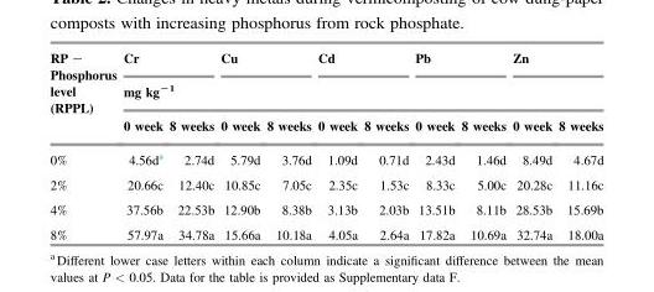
<table><thead><tr><td rowspan="3">RP – Phosphorus level (RPPL)</td><td colspan="2">Cr</td><td colspan="2">Cu</td><td colspan="2">Cd</td><td colspan="2">Pb</td><td colspan="2">Zn</td></tr><tr><td colspan="10">mg kg<sup>−1</sup></td></tr><tr><td>0 week</td><td>8 weeks</td><td>0 week</td><td>8 weeks</td><td>0 week</td><td>8 weeks</td><td>0 week</td><td>8 weeks</td><td>0 week</td><td>8 weeks</td></tr></thead><tbody><tr><td>0%</td><td>4.56d<sup>a</sup></td><td>2.74d</td><td>5.79d</td><td>3.76d</td><td>1.09d</td><td>0.71d</td><td>2.43d</td><td>1.46d</td><td>8.49d</td><td>4.67d</td></tr><tr><td>2%</td><td>20.66c</td><td>12.40c</td><td>10.85c</td><td>7.05c</td><td>2.35c</td><td>1.53c</td><td>8.33c</td><td>5.00c</td><td>20.28c</td><td>11.16c</td></tr><tr><td>4%</td><td>37.56b</td><td>22.53b</td><td>12.90b</td><td>8.38b</td><td>3.13b</td><td>2.03b</td><td>13.51b</td><td>8.11b</td><td>28.53b</td><td>15.69b</td></tr><tr><td>8%</td><td>57.97a</td><td>34.78a</td><td>15.66a</td><td>10.18a</td><td>4.05a</td><td>2.64a</td><td>17.82a</td><td>10.69a</td><td>32.74a</td><td>18.00a</td></tr></tbody></table>